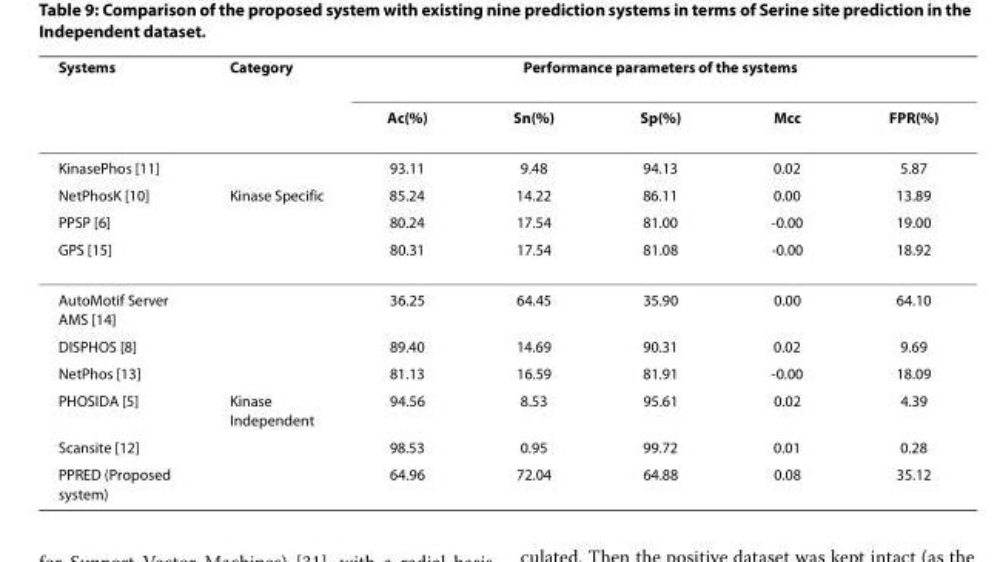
<table><thead><tr><td rowspan="2">Systems</td><td rowspan="2">Category</td><td colspan="5">Performance parameters of the systems</td></tr><tr><td>Ac(%)</td><td>Sn(%)</td><td>Sp(%)</td><td>Mcc</td><td>FPR(%)</td></tr></thead><tbody><tr><td>KinasePhos [11]</td><td></td><td>93.11</td><td>9.48</td><td>94.13</td><td>0.02</td><td>5.87</td></tr><tr><td>NetPhosK [10]</td><td>Kinase Specific</td><td>85.24</td><td>14.22</td><td>86.11</td><td>0.00</td><td>13.89</td></tr><tr><td>PPSP [6]</td><td></td><td>80.24</td><td>17.54</td><td>81.00</td><td>-0.00</td><td>19.00</td></tr><tr><td>GPS [15]</td><td></td><td>80.31</td><td>17.54</td><td>81.08</td><td>-0.00</td><td>18.92</td></tr><tr><td>AutoMotif Server AMS [14]</td><td></td><td>36.25</td><td>64.45</td><td>35.90</td><td>0.00</td><td>64.10</td></tr><tr><td>DISPHOS [8]</td><td></td><td>89.40</td><td>14.69</td><td>90.31</td><td>0.02</td><td>9.69</td></tr><tr><td>NetPhos [13]</td><td></td><td>81.13</td><td>16.59</td><td>81.91</td><td>-0.00</td><td>18.09</td></tr><tr><td>PHOSIDA [5]</td><td>Kinase Independent</td><td>94.56</td><td>8.53</td><td>95.61</td><td>0.02</td><td>4.39</td></tr><tr><td>Scansite [12]</td><td></td><td>98.53</td><td>0.95</td><td>99.72</td><td>0.01</td><td>0.28</td></tr><tr><td>PPRED (Proposed system)</td><td></td><td>64.96</td><td>72.04</td><td>64.88</td><td>0.08</td><td>35.12</td></tr></tbody></table>